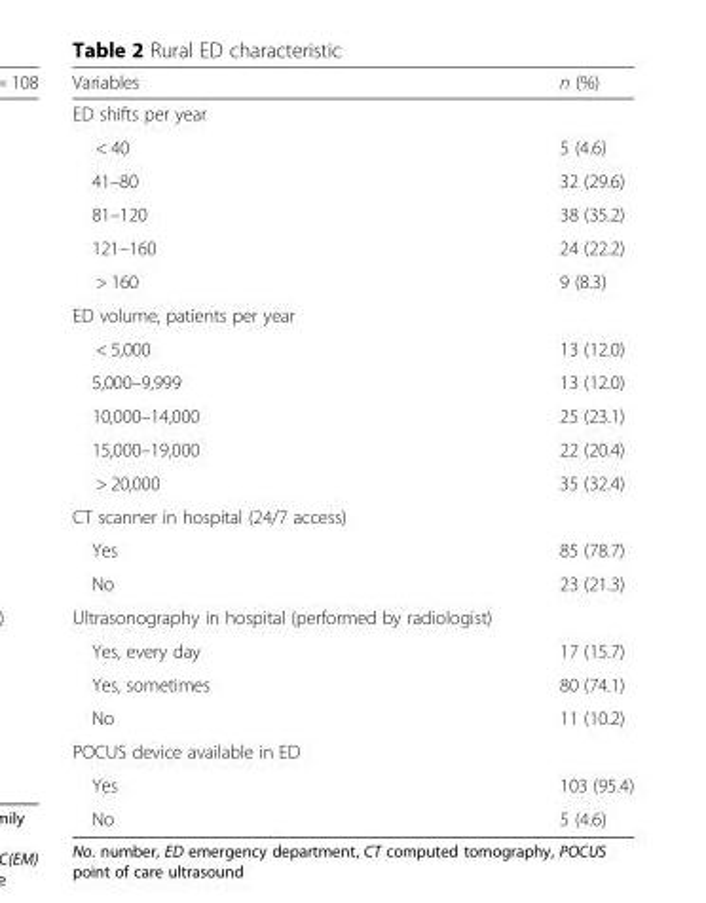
<table><thead><tr><td>Variables</td><td>n (%)</td></tr></thead><tbody><tr><td colspan="2">ED shifts per year</td></tr><tr><td>&lt; 40</td><td>5 (4.6)</td></tr><tr><td>41–80</td><td>32 (29.6)</td></tr><tr><td>81–120</td><td>38 (35.2)</td></tr><tr><td>121–160</td><td>24 (22.2)</td></tr><tr><td>&gt; 160</td><td>9 (8.3)</td></tr><tr><td colspan="2">ED volume, patients per year</td></tr><tr><td>&lt; 5,000</td><td>13 (12.0)</td></tr><tr><td>5,000–9,999</td><td>13 (12.0)</td></tr><tr><td>10,000–14,000</td><td>25 (23.1)</td></tr><tr><td>15,000–19,000</td><td>22 (20.4)</td></tr><tr><td>&gt; 20,000</td><td>35 (32.4)</td></tr><tr><td colspan="2">CT scanner in hospital (24/7 access)</td></tr><tr><td>Yes</td><td>85 (78.7)</td></tr><tr><td>No</td><td>23 (21.3)</td></tr><tr><td colspan="2">Ultrasonography in hospital (performed by radiologist)</td></tr><tr><td>Yes, every day</td><td>17 (15.7)</td></tr><tr><td>Yes, sometimes</td><td>80 (74.1)</td></tr><tr><td>No</td><td>11 (10.2)</td></tr><tr><td colspan="2">POCUS device available in ED</td></tr><tr><td>Yes</td><td>103 (95.4)</td></tr><tr><td>No</td><td>5 (4.6)</td></tr></tbody></table>